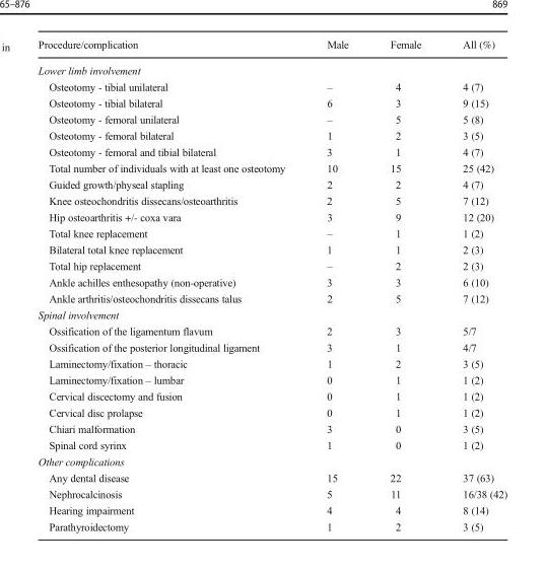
<table><thead><tr><td>Procedure/complication</td><td>Male</td><td>Female</td><td>All (%)</td></tr></thead><tbody><tr><td colspan="4">Lower limb involvement</td></tr><tr><td>Osteotomy - tibial unilateral</td><td>–</td><td>4</td><td>4 (7)</td></tr><tr><td>Osteotomy - tibial bilateral</td><td>6</td><td>3</td><td>9 (15)</td></tr><tr><td>Osteotomy - femoral unilateral</td><td>–</td><td>5</td><td>5 (8)</td></tr><tr><td>Osteotomy - femoral bilateral</td><td>1</td><td>2</td><td>3 (5)</td></tr><tr><td>Osteotomy - femoral and tibial bilateral</td><td>3</td><td>1</td><td>4 (7)</td></tr><tr><td>Total number of individuals with at least one osteotomy</td><td>10</td><td>15</td><td>25 (42)</td></tr><tr><td>Guided growth/physeal stapling</td><td>2</td><td>2</td><td>4 (7)</td></tr><tr><td>Knee osteochondritis dissecans/osteoarthritis</td><td>2</td><td>5</td><td>7 (12)</td></tr><tr><td>Hip osteoarthritis +/- coxa vara</td><td>3</td><td>9</td><td>12 (20)</td></tr><tr><td>Total knee replacement</td><td>–</td><td>1</td><td>1 (2)</td></tr><tr><td>Bilateral total knee replacement</td><td>1</td><td>1</td><td>2 (3)</td></tr><tr><td>Total hip replacement</td><td>–</td><td>2</td><td>2 (3)</td></tr><tr><td>Ankle achilles enthesopathy (non-operative)</td><td>3</td><td>3</td><td>6 (10)</td></tr><tr><td>Ankle arthritis/osteochondritis dissecans talus</td><td>2</td><td>5</td><td>7 (12)</td></tr><tr><td colspan="4">Spinal involvement</td></tr><tr><td>Ossification of the ligamentum flavum</td><td>2</td><td>3</td><td>5/7</td></tr><tr><td>Ossification of the posterior longitudinal ligament</td><td>3</td><td>1</td><td>4/7</td></tr><tr><td>Laminectomy/fixation – thoracic</td><td>1</td><td>2</td><td>3 (5)</td></tr><tr><td>Laminectomy/fixation – lumbar</td><td>0</td><td>1</td><td>1 (2)</td></tr><tr><td>Cervical discectomy and fusion</td><td>0</td><td>1</td><td>1 (2)</td></tr><tr><td>Cervical disc prolapse</td><td>0</td><td>1</td><td>1 (2)</td></tr><tr><td>Chiari malformation</td><td>3</td><td>0</td><td>3 (5)</td></tr><tr><td>Spinal cord syrinx</td><td>1</td><td>0</td><td>1 (2)</td></tr><tr><td colspan="4">Other complications</td></tr><tr><td>Any dental disease</td><td>15</td><td>22</td><td>37 (63)</td></tr><tr><td>Nephrocalcinosis</td><td>5</td><td>11</td><td>16/38 (42)</td></tr><tr><td>Hearing impairment</td><td>4</td><td>4</td><td>8 (14)</td></tr><tr><td>Parathyroidectomy</td><td>1</td><td>2</td><td>3 (5)</td></tr></tbody></table>